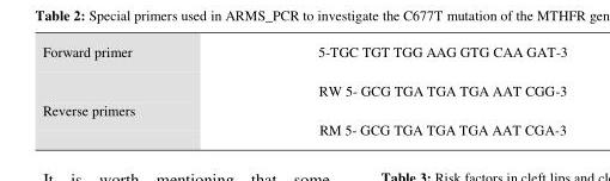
<table><tbody><tr><td>Forward primer</td><td>5-TGC TGT TGG AAG GTG CAA GAT-3</td></tr><tr><td rowspan="2">Reverse primers</td><td>RW 5- GCG TGA TGA TGA AAT CGG-3</td></tr><tr><td>RM 5- GCG TGA TGA TGA AAT CGA-3</td></tr></tbody></table>